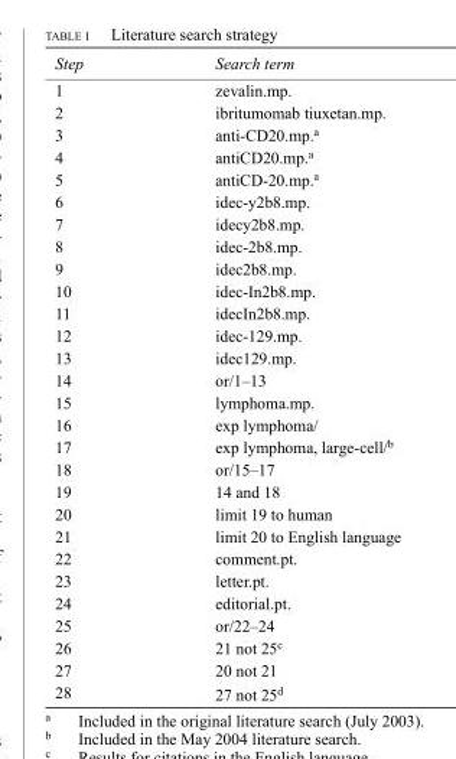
<table><thead><tr><td>Step</td><td>Search term</td></tr></thead><tbody><tr><td>1</td><td>zevalin.mp.</td></tr><tr><td>2</td><td>ibritumomab tiuxetan.mp.</td></tr><tr><td>3</td><td>anti-CD20.mp.<sup>a</sup></td></tr><tr><td>4</td><td>antiCD20.mp.<sup>a</sup></td></tr><tr><td>5</td><td>antiCD-20.mp.<sup>a</sup></td></tr><tr><td>6</td><td>idec-y2b8.mp.</td></tr><tr><td>7</td><td>idecy2b8.mp.</td></tr><tr><td>8</td><td>idec-2b8.mp.</td></tr><tr><td>9</td><td>idec2b8.mp.</td></tr><tr><td>10</td><td>idec-In2b8.mp.</td></tr><tr><td>11</td><td>idecIn2b8.mp.</td></tr><tr><td>12</td><td>idec-129.mp.</td></tr><tr><td>13</td><td>idec129.mp.</td></tr><tr><td>14</td><td>or/1–13</td></tr><tr><td>15</td><td>lymphoma.mp.</td></tr><tr><td>16</td><td>exp lymphoma/</td></tr><tr><td>17</td><td>exp lymphoma, large-cell/b</td></tr><tr><td>18</td><td>or/15–17</td></tr><tr><td>19</td><td>14 and 18</td></tr><tr><td>20</td><td>limit 19 to human</td></tr><tr><td>21</td><td>limit 20 to English language</td></tr><tr><td>22</td><td>comment.pt.</td></tr><tr><td>23</td><td>letter.pt.</td></tr><tr><td>24</td><td>editorial.pt.</td></tr><tr><td>25</td><td>or/22–24</td></tr><tr><td>26</td><td>21 not 25<sup>c</sup></td></tr><tr><td>27</td><td>20 not 21</td></tr><tr><td>28</td><td>27 not 25<sup>d</sup></td></tr></tbody></table>